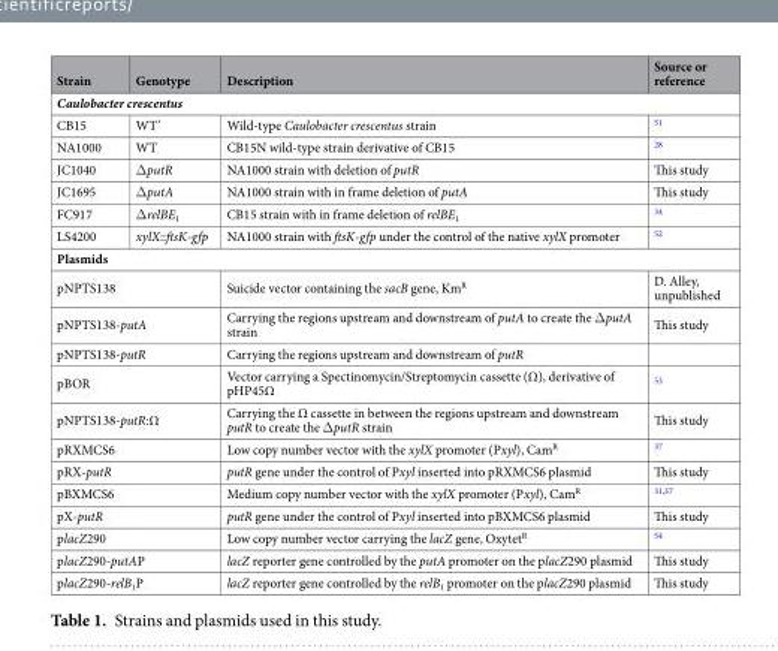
<table><thead><tr><td>Strain</td><td>Genotype</td><td>Description</td><td>Source or reference</td></tr></thead><tbody><tr><td colspan="4">Caulobacter crescentus</td></tr><tr><td>CB15</td><td>WT’</td><td>Wild-type Caulobacter crescentus strain</td><td><sup>51</sup></td></tr><tr><td>NA1000</td><td>WT</td><td>CB15N wild-type strain derivative of CB15</td><td><sup>28</sup></td></tr><tr><td>JC1040</td><td>ΔputR</td><td>NA1000 strain with deletion of putR</td><td>This study</td></tr><tr><td>JC1695</td><td>ΔputA</td><td>NA1000 strain with in frame deletion of putA</td><td>This study</td></tr><tr><td>FC917</td><td>ΔrelBE<sub>1</sub></td><td>CB15 strain with in frame deletion of relBE<sub>1</sub></td><td><sup>34</sup></td></tr><tr><td>LS4200</td><td>xylX::ftsK-gfp</td><td>NA1000 strain with ftsK-gfp under the control of the native xylX promoter</td><td><sup>52</sup></td></tr><tr><td colspan="4">Plasmids</td></tr><tr><td colspan="2">pNPTS138</td><td>Suicide vector containing the sacB gene, Km<sup>R</sup></td><td>D. Alley, unpublished</td></tr><tr><td colspan="2">pNPTS138-putA</td><td>Carrying the regions upstream and downstream of putA to create the ΔputA strain</td><td>This study</td></tr><tr><td colspan="2">pNPTS138-putR</td><td>Carrying the regions upstream and downstream of putR</td><td></td></tr><tr><td colspan="2">pBOR</td><td>Vector carrying a Spectinomycin/Streptomycin cassette (Ω), derivative of pHP45Ω</td><td><sup>53</sup></td></tr><tr><td colspan="2">pNPTS138-putR:Ω</td><td>Carrying the Ω cassette in between the regions upstream and downstream putR to create the ΔputR strain</td><td>This study</td></tr><tr><td colspan="2">pRXMCS6</td><td>Low copy number vector with the xylX promoter (Pxyl), Cam<sup>R</sup></td><td><sup>37</sup></td></tr><tr><td colspan="2">pRX-putR</td><td>putR gene under the control of Pxyl inserted into pRXMCS6 plasmid</td><td>This study</td></tr><tr><td colspan="2">pBXMCS6</td><td>Medium copy number vector with the xylX promoter (Pxyl), Cam<sup>R</sup></td><td><sup>31,37</sup></td></tr><tr><td colspan="2">pX-putR</td><td>putR gene under the control of Pxyl inserted into pBXMCS6 plasmid</td><td>This study</td></tr><tr><td colspan="2">placZ290</td><td>Low copy number vector carrying the lacZ gene, Oxytet<sup>R</sup></td><td><sup>54</sup></td></tr><tr><td colspan="2">placZ290-putAP</td><td>lacZ reporter gene controlled by the putA promoter on the placZ290 plasmid</td><td>This study</td></tr><tr><td colspan="2">placZ290-relB<sub>1</sub>P</td><td>lacZ reporter gene controlled by the relB<sub>1</sub> promoter on the placZ290 plasmid</td><td>This study</td></tr></tbody></table>